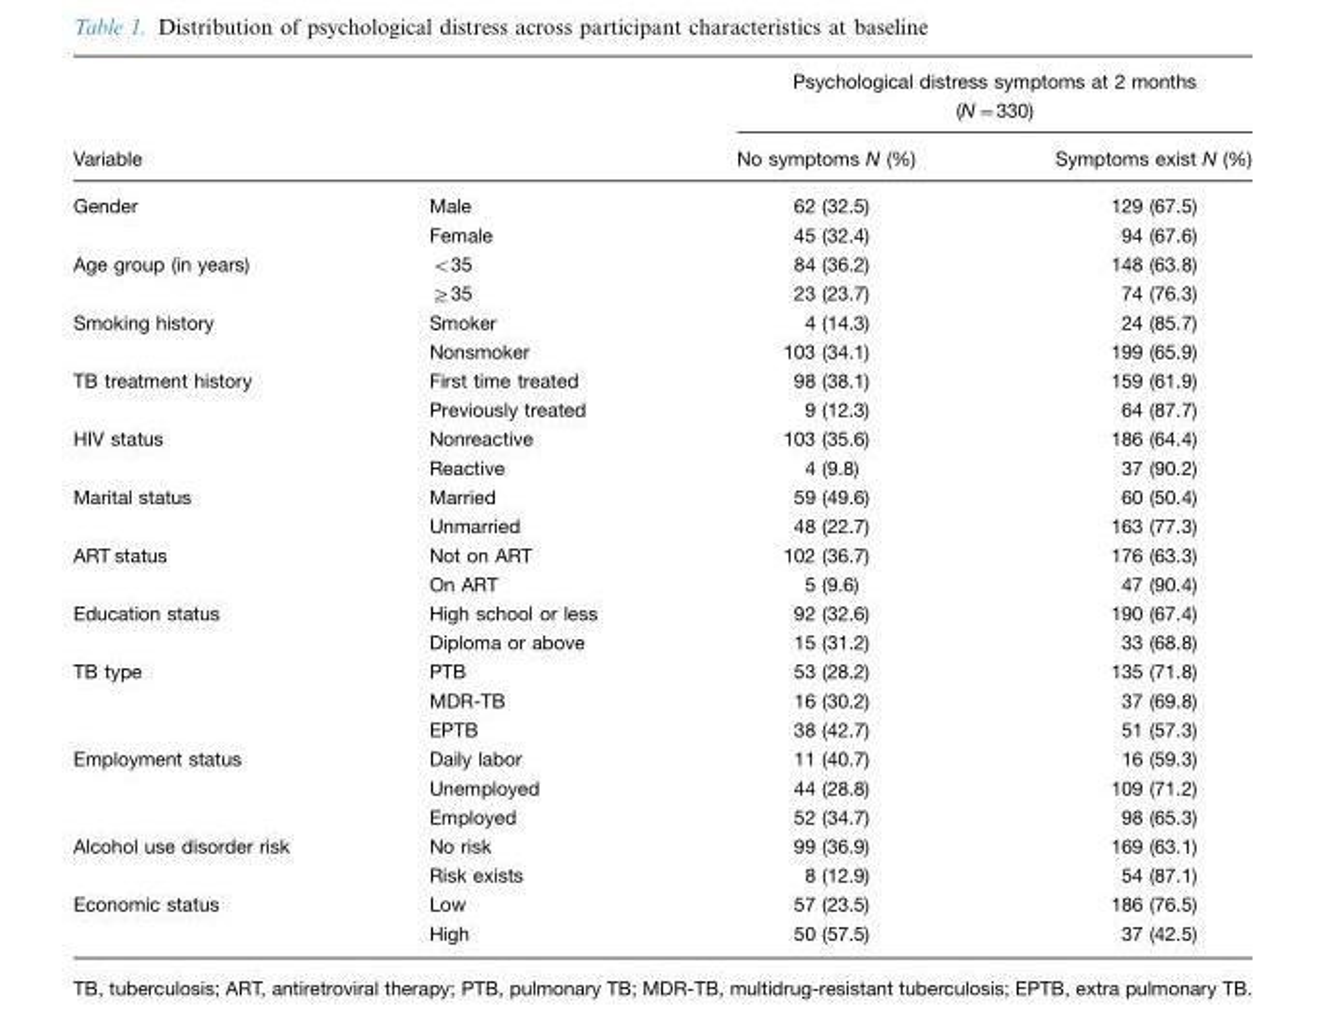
<table><thead><tr><td rowspan="2">Variable</td><td rowspan="2"></td><td colspan="2">Psychological distress symptoms at 2 months (N=330)</td></tr><tr><td>No symptoms N (%)</td><td>Symptoms exist N (%)</td></tr></thead><tbody><tr><td rowspan="2">Gender</td><td>Male</td><td>62 (32.5)</td><td>129 (67.5)</td></tr><tr><td>Female</td><td>45 (32.4)</td><td>94 (67.6)</td></tr><tr><td rowspan="2">Age group (in years)</td><td>&lt;35</td><td>84 (36.2)</td><td>148 (63.8)</td></tr><tr><td>≥35</td><td>23 (23.7)</td><td>74 (76.3)</td></tr><tr><td rowspan="2">Smoking history</td><td>Smoker</td><td>4 (14.3)</td><td>24 (85.7)</td></tr><tr><td>Nonsmoker</td><td>103 (34.1)</td><td>199 (65.9)</td></tr><tr><td rowspan="2">TB treatment history</td><td>First time treated</td><td>98 (38.1)</td><td>159 (61.9)</td></tr><tr><td>Previously treated</td><td>9 (12.3)</td><td>64 (87.7)</td></tr><tr><td rowspan="2">HIV status</td><td>Nonreactive</td><td>103 (35.6)</td><td>186 (64.4)</td></tr><tr><td>Reactive</td><td>4 (9.8)</td><td>37 (90.2)</td></tr><tr><td rowspan="2">Marital status</td><td>Married</td><td>59 (49.6)</td><td>60 (50.4)</td></tr><tr><td>Unmarried</td><td>48 (22.7)</td><td>163 (77.3)</td></tr><tr><td rowspan="2">ART status</td><td>Not on ART</td><td>102 (36.7)</td><td>176 (63.3)</td></tr><tr><td>On ART</td><td>5 (9.6)</td><td>47 (90.4)</td></tr><tr><td rowspan="2">Education status</td><td>High school or less</td><td>92 (32.6)</td><td>190 (67.4)</td></tr><tr><td>Diploma or above</td><td>15 (31.2)</td><td>33 (68.8)</td></tr><tr><td rowspan="3">TB type</td><td>PTB</td><td>53 (28.2)</td><td>135 (71.8)</td></tr><tr><td>MDR-TB</td><td>16 (30.2)</td><td>37 (69.8)</td></tr><tr><td>EPTB</td><td>38 (42.7)</td><td>51 (57.3)</td></tr><tr><td rowspan="3">Employment status</td><td>Daily labor</td><td>11 (40.7)</td><td>16 (59.3)</td></tr><tr><td>Unemployed</td><td>44 (28.8)</td><td>109 (71.2)</td></tr><tr><td>Employed</td><td>52 (34.7)</td><td>98 (65.3)</td></tr><tr><td rowspan="2">Alcohol use disorder risk</td><td>No risk</td><td>99 (36.9)</td><td>169 (63.1)</td></tr><tr><td>Risk exists</td><td>8 (12.9)</td><td>54 (87.1)</td></tr><tr><td rowspan="2">Economic status</td><td>Low</td><td>57 (23.5)</td><td>186 (76.5)</td></tr><tr><td>High</td><td>50 (57.5)</td><td>37 (42.5)</td></tr></tbody></table>